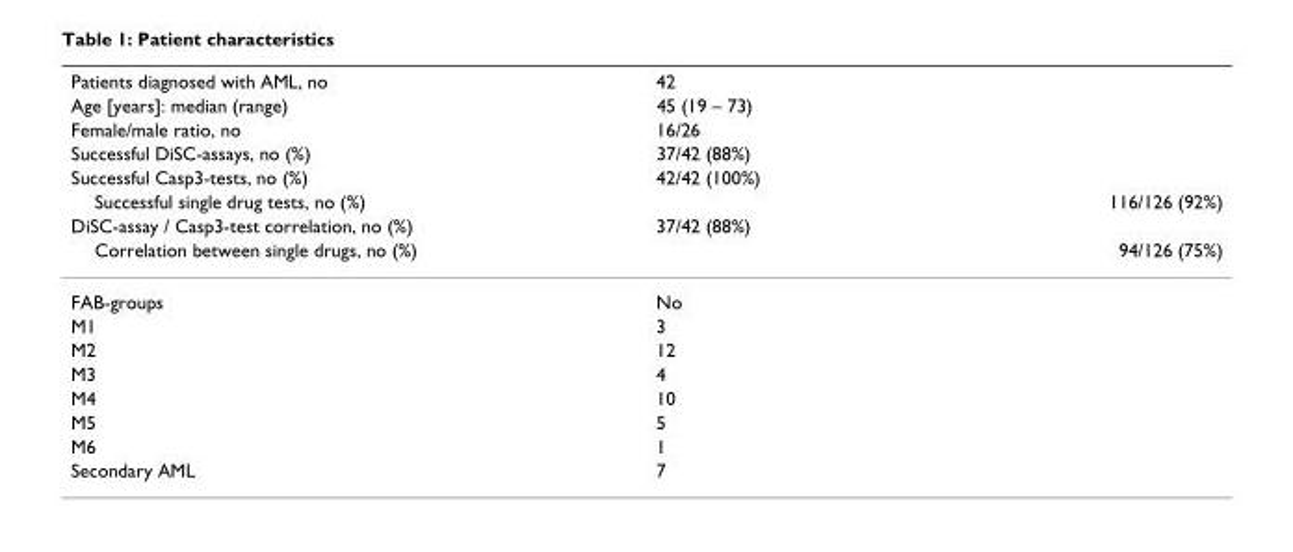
<table><thead><tr><td rowspan="8">Patients diagnosed with AML, no Age [years]: median (range) Female/male ratio, no Successful DiSC-assays, no (%) Successful Casp3-tests, no (%) Successful single drug tests, no (%) DiSC-assay / Casp3-test correlation, no (%) Correlation between single drugs, no (%)</td><td rowspan="8">42 45 (19 – 73) 16/26 37/42 (88%) 42/42 (100%) 116/126 (92%) 37/42 (88%) 94/126 (75%)</td></tr><tr></tr><tr></tr><tr></tr><tr></tr><tr></tr><tr></tr><tr></tr></thead><tbody><tr><td>FAB-groups</td><td>No</td></tr><tr><td>M1</td><td>3</td></tr><tr><td>M2</td><td>12</td></tr><tr><td>M3</td><td>4</td></tr><tr><td>M4</td><td>10</td></tr><tr><td>M5</td><td>5</td></tr><tr><td>M6</td><td>1</td></tr><tr><td>Secondary AML</td><td>7</td></tr></tbody></table>